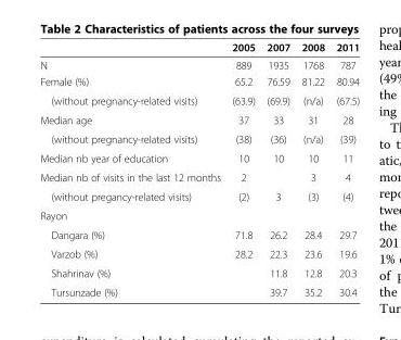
<table><thead><tr><td rowspan="2">N</td><td rowspan="2">2005 889</td><td rowspan="2">2007 1935</td><td rowspan="2">2008 1768</td><td rowspan="2">2011 787</td></tr><tr></tr></thead><tbody><tr><td>Female (%)</td><td>65.2</td><td>76.59</td><td>81.22</td><td>80.94</td></tr><tr><td>(without pregnancy-related visits)</td><td>(63.9)</td><td>(69.9)</td><td>(n/a)</td><td>(67.5)</td></tr><tr><td>Median age</td><td>37</td><td>33</td><td>31</td><td>28</td></tr><tr><td>(without pregnancy-related visits)</td><td>(38)</td><td>(36)</td><td>(n/a)</td><td>(39)</td></tr><tr><td>Median nb year of education</td><td>10</td><td>10</td><td>10</td><td>11</td></tr><tr><td>Median nb of visits in the last 12 months</td><td>2</td><td></td><td>3</td><td>4</td></tr><tr><td>(without pregancy-related visits)</td><td>(2)</td><td>3</td><td>(3)</td><td>(4)</td></tr><tr><td colspan="5">Rayon</td></tr><tr><td>Dangara (%)</td><td>71.8</td><td>26.2</td><td>28.4</td><td>29.7</td></tr><tr><td>Varzob (%)</td><td>28.2</td><td>22.3</td><td>23.6</td><td>19.6</td></tr><tr><td>Shahrinav (%)</td><td></td><td>11.8</td><td>12.8</td><td>20.3</td></tr><tr><td>Tursunzade (%)</td><td></td><td>39.7</td><td>35.2</td><td>30.4</td></tr></tbody></table>